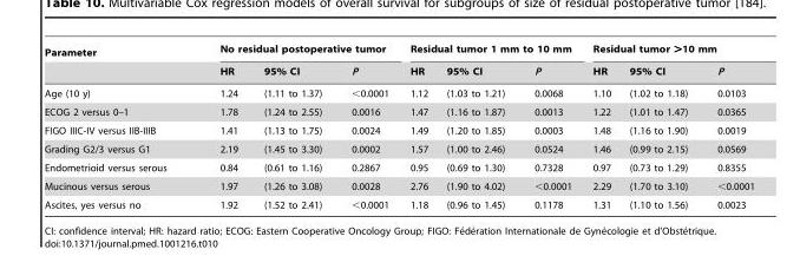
<table><thead><tr><td rowspan="2">Parameter</td><td colspan="3">No residual postoperative tumor</td><td colspan="3">Residual tumor 1 mm to 10 mm</td><td colspan="3">Residual tumor &gt;10 mm</td></tr><tr><td>HR</td><td>95% CI</td><td>P</td><td>HR</td><td>95% CI</td><td>P</td><td>HR</td><td>95% CI</td><td>P</td></tr></thead><tbody><tr><td>Age (10 y)</td><td>1.24</td><td>(1.11 to 1.37)</td><td>&lt;0.0001</td><td>1.12</td><td>(1.03 to 1.21)</td><td>0.0068</td><td>1.10</td><td>(1.02 to 1.18)</td><td>0.0103</td></tr><tr><td>ECOG 2 versus 0–1</td><td>1.78</td><td>(1.24 to 2.55)</td><td>0.0016</td><td>1.47</td><td>(1.16 to 1.87)</td><td>0.0013</td><td>1.22</td><td>(1.01 to 1.47)</td><td>0.0365</td></tr><tr><td>FIGO IIIC-IV versus IIB-IIIB</td><td>1.41</td><td>(1.13 to 1.75)</td><td>0.0024</td><td>1.49</td><td>(1.20 to 1.85)</td><td>0.0003</td><td>1.48</td><td>(1.16 to 1.90)</td><td>0.0019</td></tr><tr><td>Grading G2/3 versus G1</td><td>2.19</td><td>(1.45 to 3.30)</td><td>0.0002</td><td>1.57</td><td>(1.00 to 2.46)</td><td>0.0524</td><td>1.46</td><td>(0.99 to 2.15)</td><td>0.0569</td></tr><tr><td>Endometrioid versus serous</td><td>0.84</td><td>(0.61 to 1.16)</td><td>0.2867</td><td>0.95</td><td>(0.69 to 1.30)</td><td>0.7328</td><td>0.97</td><td>(0.73 to 1.29)</td><td>0.8355</td></tr><tr><td>Mucinous versus serous</td><td>1.97</td><td>(1.26 to 3.08)</td><td>0.0028</td><td>2.76</td><td>(1.90 to 4.02)</td><td>&lt;0.0001</td><td>2.29</td><td>(1.70 to 3.10)</td><td>&lt;0.0001</td></tr><tr><td>Ascites, yes versus no</td><td>1.92</td><td>(1.52 to 2.41)</td><td>&lt;0.0001</td><td>1.18</td><td>(0.96 to 1.45)</td><td>0.1178</td><td>1.31</td><td>(1.10 to 1.56)</td><td>0.0023</td></tr></tbody></table>